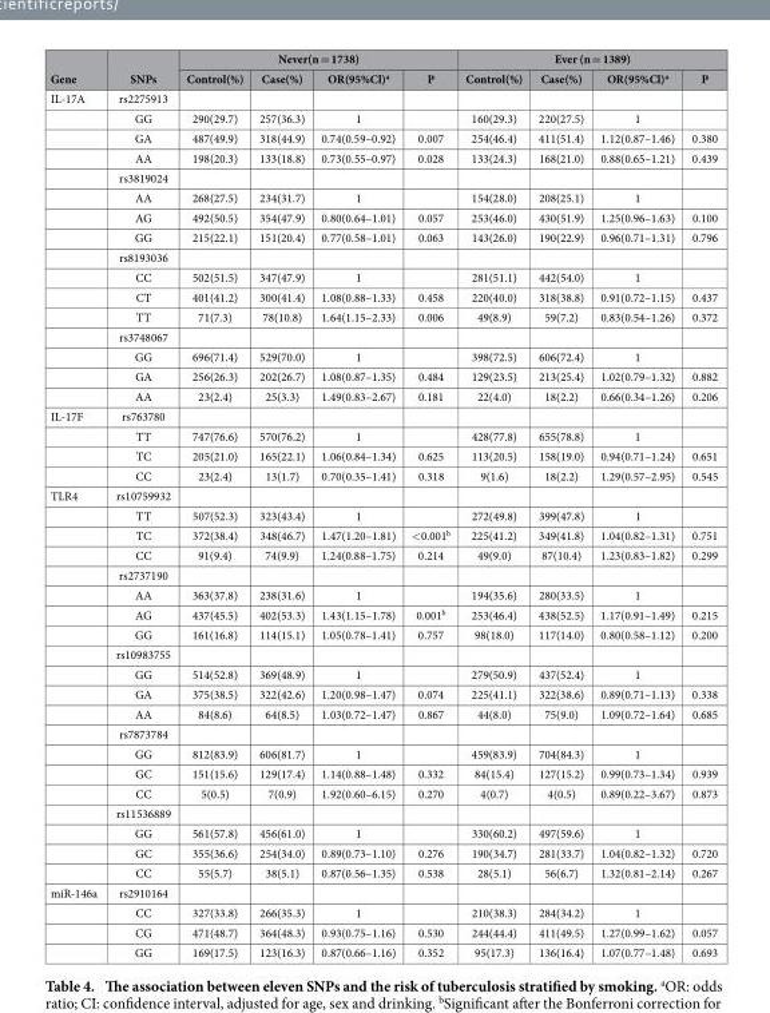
<table><thead><tr><td rowspan="2">Gene</td><td rowspan="2">SNPs</td><td colspan="4">Never(n = 1738)</td><td colspan="4">Ever (n = 1389)</td></tr><tr><td>Control(%)</td><td>Case(%)</td><td>OR(95%Cl)<sup>a</sup></td><td>P</td><td>Control(%)</td><td>Case(%)</td><td>OR(95%Cl)<sup>a</sup></td><td>P</td></tr></thead><tbody><tr><td rowspan="16">IL-17A</td><td>rs2275913</td><td></td><td></td><td></td><td></td><td></td><td></td><td></td><td></td></tr><tr><td>GG</td><td>290(29.7)</td><td>257(36.3)</td><td>1</td><td></td><td>160(29.3)</td><td>220(27.5)</td><td>1</td><td></td></tr><tr><td>GA</td><td>487(49.9)</td><td>318(44.9)</td><td>0.74(0.59–0.92)</td><td>0.007</td><td>254(46.4)</td><td>411(51.4)</td><td>1.12(0.87–1.46)</td><td>0.380</td></tr><tr><td>AA</td><td>198(20.3)</td><td>133(18.8)</td><td>0.73(0.55–0.97)</td><td>0.028</td><td>133(24.3)</td><td>168(21.0)</td><td>0.88(0.65–1.21)</td><td>0.439</td></tr><tr><td>rs3819024</td><td></td><td></td><td></td><td></td><td></td><td></td><td></td><td></td></tr><tr><td>AA</td><td>268(27.5)</td><td>234(31.7)</td><td>1</td><td></td><td>154(28.0)</td><td>208(25.1)</td><td>1</td><td></td></tr><tr><td>AG</td><td>492(50.5)</td><td>354(47.9)</td><td>0.80(0.64–1.01)</td><td>0.057</td><td>253(46.0)</td><td>430(51.9)</td><td>1.25(0.96–1.63)</td><td>0.100</td></tr><tr><td>GG</td><td>215(22.1)</td><td>151(20.4)</td><td>0.77(0.58–1.01)</td><td>0.063</td><td>143(26.0)</td><td>190(22.9)</td><td>0.96(0.71–1.31)</td><td>0.796</td></tr><tr><td>rs8193036</td><td></td><td></td><td></td><td></td><td></td><td></td><td></td><td></td></tr><tr><td>CC</td><td>502(51.5)</td><td>347(47.9)</td><td>1</td><td></td><td>281(51.1)</td><td>442(54.0)</td><td>1</td><td></td></tr><tr><td>CT</td><td>401(41.2)</td><td>300(41.4)</td><td>1.08(0.88–1.33)</td><td>0.458</td><td>220(40.0)</td><td>318(38.8)</td><td>0.91(0.72–1.15)</td><td>0.437</td></tr><tr><td>TT</td><td>71(7.3)</td><td>78(10.8)</td><td>1.64(1.15–2.33)</td><td>0.006</td><td>49(8.9)</td><td>59(7.2)</td><td>0.83(0.54–1.26)</td><td>0.372</td></tr><tr><td>rs3748067</td><td></td><td></td><td></td><td></td><td></td><td></td><td></td><td></td></tr><tr><td>GG</td><td>696(71.4)</td><td>529(70.0)</td><td>1</td><td></td><td>398(72.5)</td><td>606(72.4)</td><td>1</td><td></td></tr><tr><td>GA</td><td>256(26.3)</td><td>202(26.7)</td><td>1.08(0.87–1.35)</td><td>0.484</td><td>129(23.5)</td><td>213(25.4)</td><td>1.02(0.79–1.32)</td><td>0.882</td></tr><tr><td>AA</td><td>23(2.4)</td><td>25(3.3)</td><td>1.49(0.83–2.67)</td><td>0.181</td><td>22(4.0)</td><td>18(2.2)</td><td>0.66(0.34–1.26)</td><td>0.206</td></tr><tr><td rowspan="4">IL-17F</td><td>rs763780</td><td></td><td></td><td></td><td></td><td></td><td></td><td></td><td></td></tr><tr><td>TT</td><td>747(76.6)</td><td>570(76.2)</td><td>1</td><td></td><td>428(77.8)</td><td>655(78.8)</td><td>1</td><td></td></tr><tr><td>TC</td><td>205(21.0)</td><td>165(22.1)</td><td>1.06(0.84–1.34)</td><td>0.625</td><td>113(20.5)</td><td>158(19.0)</td><td>0.94(0.71–1.24)</td><td>0.651</td></tr><tr><td>CC</td><td>23(2.4)</td><td>13(1.7)</td><td>0.70(0.35–1.41)</td><td>0.318</td><td>9(1.6)</td><td>18(2.2)</td><td>1.29(0.57–2.95)</td><td>0.545</td></tr><tr><td rowspan="20">TLR4</td><td>rs10759932</td><td></td><td></td><td></td><td></td><td></td><td></td><td></td><td></td></tr><tr><td>TT</td><td>507(52.3)</td><td>323(43.4)</td><td>1</td><td></td><td>272(49.8)</td><td>399(47.8)</td><td>1</td><td></td></tr><tr><td>TC</td><td>372(38.4)</td><td>348(46.7)</td><td>1.47(1.20–1.81)</td><td>&lt; 0.001<sup>b</sup></td><td>225(41.2)</td><td>349(41.8)</td><td>1.04(0.82–1.31)</td><td>0.751</td></tr><tr><td>CC</td><td>91(9.4)</td><td>74(9.9)</td><td>1.24(0.88–1.75)</td><td>0.214</td><td>49(9.0)</td><td>87(10.4)</td><td>1.23(0.83–1.82)</td><td>0.299</td></tr><tr><td>rs2737190</td><td></td><td></td><td></td><td></td><td></td><td></td><td></td><td></td></tr><tr><td>AA</td><td>363(37.8)</td><td>238(31.6)</td><td>1</td><td></td><td>194(35.6)</td><td>280(33.5)</td><td>1</td><td></td></tr><tr><td>AG</td><td>437(45.5)</td><td>402(53.3)</td><td>1.43(1.15–1.78)</td><td>0.001<sup>b</sup></td><td>253(46.4)</td><td>438(52.5)</td><td>1.17(0.91–1.49)</td><td>0.215</td></tr><tr><td>GG</td><td>161(16.8)</td><td>114(15.1)</td><td>1.05(0.78–1.41)</td><td>0.757</td><td>98(18.0)</td><td>117(14.0)</td><td>0.80(0.58–1.12)</td><td>0.200</td></tr><tr><td>rs10983755</td><td></td><td></td><td></td><td></td><td></td><td></td><td></td><td></td></tr><tr><td>GG</td><td>514(52.8)</td><td>369(48.9)</td><td>1</td><td></td><td>279(50.9)</td><td>437(52.4)</td><td>1</td><td></td></tr><tr><td>GA</td><td>375(38.5)</td><td>322(42.6)</td><td>1.20(0.98–1.47)</td><td>0.074</td><td>225(41.1)</td><td>322(38.6)</td><td>0.89(0.71–1.13)</td><td>0.338</td></tr><tr><td>AA</td><td>84(8.6)</td><td>64(8.5)</td><td>1.03(0.72–1.47)</td><td>0.867</td><td>44(8.0)</td><td>75(9.0)</td><td>1.09(0.72–1.64)</td><td>0.685</td></tr><tr><td>rs7873784</td><td></td><td></td><td></td><td></td><td></td><td></td><td></td><td></td></tr><tr><td>GG</td><td>812(83.9)</td><td>606(81.7)</td><td>1</td><td></td><td>459(83.9)</td><td>704(84.3)</td><td>1</td><td></td></tr><tr><td>GC</td><td>151(15.6)</td><td>129(17.4)</td><td>1.14(0.88–1.48)</td><td>0.332</td><td>84(15.4)</td><td>127(15.2)</td><td>0.99(0.73–1.34)</td><td>0.939</td></tr><tr><td>CC</td><td>5(0.5)</td><td>7(0.9)</td><td>1.92(0.60–6.15)</td><td>0.270</td><td>4(0.7)</td><td>4(0.5)</td><td>0.89(0.22–3.67)</td><td>0.873</td></tr><tr><td>rs11536889</td><td></td><td></td><td></td><td></td><td></td><td></td><td></td><td></td></tr><tr><td>GG</td><td>561(57.8)</td><td>456(61.0)</td><td>1</td><td></td><td>330(60.2)</td><td>497(59.6)</td><td>1</td><td></td></tr><tr><td>GC</td><td>355(36.6)</td><td>254(34.0)</td><td>0.89(0.73–1.10)</td><td>0.276</td><td>190(34.7)</td><td>281(33.7)</td><td>1.04(0.82–1.32)</td><td>0.720</td></tr><tr><td>CC</td><td>55(5.7)</td><td>38(5.1)</td><td>0.87(0.56–1.35)</td><td>0.538</td><td>28(5.1)</td><td>56(6.7)</td><td>1.32(0.81–2.14)</td><td>0.267</td></tr><tr><td rowspan="4">miR-146a</td><td>rs2910164</td><td></td><td></td><td></td><td></td><td></td><td></td><td></td><td></td></tr><tr><td>CC</td><td>327(33.8)</td><td>266(35.3)</td><td>1</td><td></td><td>210(38.3)</td><td>284(34.2)</td><td>1</td><td></td></tr><tr><td>CG</td><td>471(48.7)</td><td>364(48.3)</td><td>0.93(0.75–1.16)</td><td>0.530</td><td>244(44.4)</td><td>411(49.5)</td><td>1.27(0.99–1.62)</td><td>0.057</td></tr><tr><td>GG</td><td>169(17.5)</td><td>123(16.3)</td><td>0.87(0.66–1.16)</td><td>0.352</td><td>95(17.3)</td><td>136(16.4)</td><td>1.07(0.77–1.48)</td><td>0.693</td></tr></tbody></table>